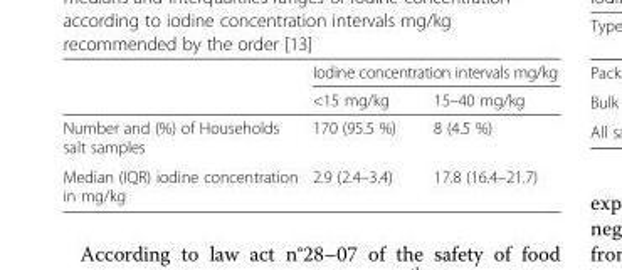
<table><thead><tr><td rowspan="2"></td><td colspan="2">Iodine concentration intervals mg/kg</td></tr><tr><td>&lt;15 mg/kg</td><td>15–40 mg/kg</td></tr></thead><tbody><tr><td>Number and (%) of Households salt samples</td><td>170 (95.5 %)</td><td>8 (4.5 %)</td></tr><tr><td>Median (IQR) iodine concentration in mg/kg</td><td>2.9 (2.4–3.4)</td><td>17.8 (16.4–21.7)</td></tr></tbody></table>